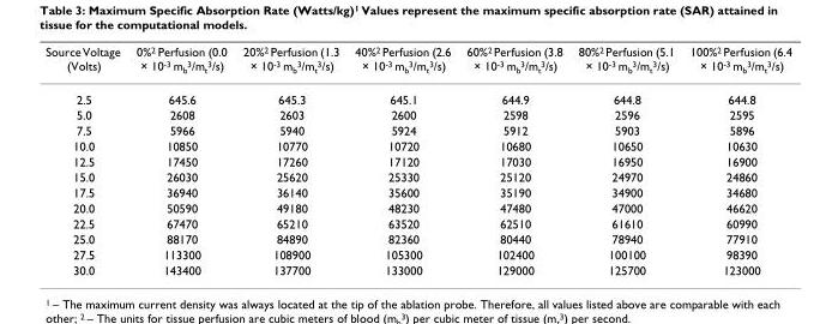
<table><thead><tr><td>Source Voltage (Volts)</td><td>0%<sup>2</sup> Perfusion (0.0 × 10<sup>-3</sup> m<sub>b</sub><sup>3</sup>/m<sub>t</sub><sup>3</sup>/s)</td><td>20%<sup>2</sup> Perfusion (1.3 × 10<sup>-3</sup> m<sub>b</sub><sup>3</sup>/m<sub>t</sub><sup>3</sup>/s)</td><td>40%<sup>2</sup> Perfusion (2.6 × 10<sup>-3</sup> m<sub>b</sub><sup>3</sup>/m<sub>t</sub><sup>3</sup>/s)</td><td>60%<sup>2</sup> Perfusion (3.8 × 10<sup>-3</sup> m<sub>b</sub><sup>3</sup>/m<sub>t</sub><sup>3</sup>/s)</td><td>80%<sup>2</sup> Perfusion (5.1 × 10<sup>-3</sup> m<sub>b</sub><sup>3</sup>/m<sub>t</sub><sup>3</sup>/s)</td><td>100%<sup>2</sup> Perfusion (6.4 × 10<sup>-3</sup> m<sub>b</sub><sup>3</sup>/m<sub>t</sub><sup>3</sup>/s)</td></tr></thead><tbody><tr><td>2.5</td><td>645.6</td><td>645.3</td><td>645.1</td><td>644.9</td><td>644.8</td><td>644.8</td></tr><tr><td>5.0</td><td>2608</td><td>2603</td><td>2600</td><td>2598</td><td>2596</td><td>2595</td></tr><tr><td>7.5</td><td>5966</td><td>5940</td><td>5924</td><td>5912</td><td>5903</td><td>5896</td></tr><tr><td>10.0</td><td>10850</td><td>10770</td><td>10720</td><td>10680</td><td>10650</td><td>10630</td></tr><tr><td>12.5</td><td>17450</td><td>17260</td><td>17120</td><td>17030</td><td>16950</td><td>16900</td></tr><tr><td>15.0</td><td>26030</td><td>25620</td><td>25330</td><td>25120</td><td>24970</td><td>24860</td></tr><tr><td>17.5</td><td>36940</td><td>36140</td><td>35600</td><td>35190</td><td>34900</td><td>34680</td></tr><tr><td>20.0</td><td>50590</td><td>49180</td><td>48230</td><td>47480</td><td>47000</td><td>46620</td></tr><tr><td>22.5</td><td>67470</td><td>65210</td><td>63520</td><td>62510</td><td>61610</td><td>60990</td></tr><tr><td>25.0</td><td>88170</td><td>84890</td><td>82360</td><td>80440</td><td>78940</td><td>77910</td></tr><tr><td>27.5</td><td>113300</td><td>108900</td><td>105300</td><td>102400</td><td>100100</td><td>98390</td></tr><tr><td>30.0</td><td>143400</td><td>137700</td><td>133000</td><td>129000</td><td>125700</td><td>123000</td></tr></tbody></table>